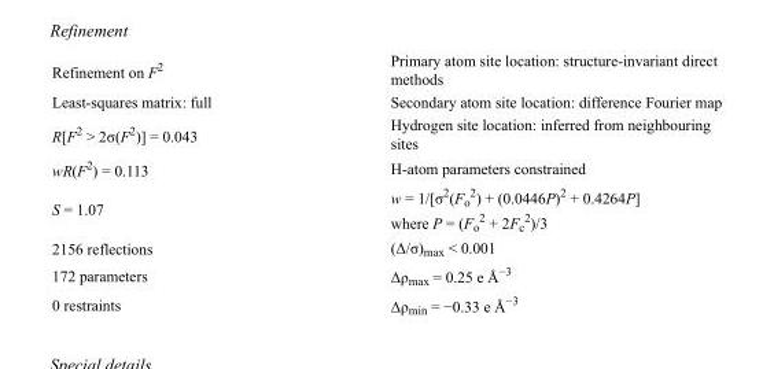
<table><tbody><tr><td>Refinement on F<sup>2</sup></td><td>Primary atom site location: structure-invariant direct methods</td></tr><tr><td>Least-squares matrix: full</td><td>Secondary atom site location: difference Fourier map</td></tr><tr><td>R[F<sup>2</sup> &gt; 2σ(F<sup>2</sup>)] = 0.043</td><td>Hydrogen site location: inferred from neighbouring sites</td></tr><tr><td>wR(F<sup>2</sup>) = 0.113</td><td>H-atom parameters constrained</td></tr><tr><td>S = 1.07</td><td>w = 1/[σ<sup>2</sup>(F<sub>o</sub> <sup>2</sup>) + (0.0446P)<sup>2</sup> + 0.4264P] where P = (F<sub>o</sub> <sup>2</sup> + 2F<sub>c</sub> <sup>2</sup>)/3</td></tr><tr><td>2156 reflections</td><td>(Δ/σ)<sub>max</sub> &lt; 0.001</td></tr><tr><td>172 parameters</td><td>Δρ<sub>max</sub> = 0.25 e Å<sup>−3</sup></td></tr><tr><td>0 restraints</td><td>Δρ<sub>min</sub> = −0.33 e Å<sup>−3</sup></td></tr></tbody></table>